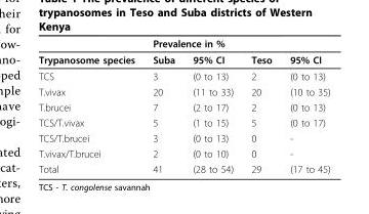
<table><thead><tr><td rowspan="2">Trypanosome species</td><td colspan="2">Prevalence in %</td><td rowspan="2">Teso</td><td rowspan="2">95% CI</td></tr><tr><td>Suba</td><td>95% CI</td></tr></thead><tbody><tr><td>TCS</td><td>3</td><td>(0 to 13)</td><td>2</td><td>(0 to 13)</td></tr><tr><td>T.vivax</td><td>20</td><td>(11 to 33)</td><td>20</td><td>(10 to 35)</td></tr><tr><td>T.brucei</td><td>7</td><td>(2 to 17)</td><td>2</td><td>(0 to 13)</td></tr><tr><td>TCS/T.vivax</td><td>5</td><td>(1 to 15)</td><td>5</td><td>(0 to 17)</td></tr><tr><td>TCS/T.brucei</td><td>3</td><td>(0 to 13)</td><td>0</td><td>-</td></tr><tr><td>T.vivax/T.brucei</td><td>2</td><td>(0 to 10)</td><td>0</td><td>-</td></tr><tr><td>Total</td><td>41</td><td>(28 to 54)</td><td>29</td><td>(17 to 45)</td></tr></tbody></table>